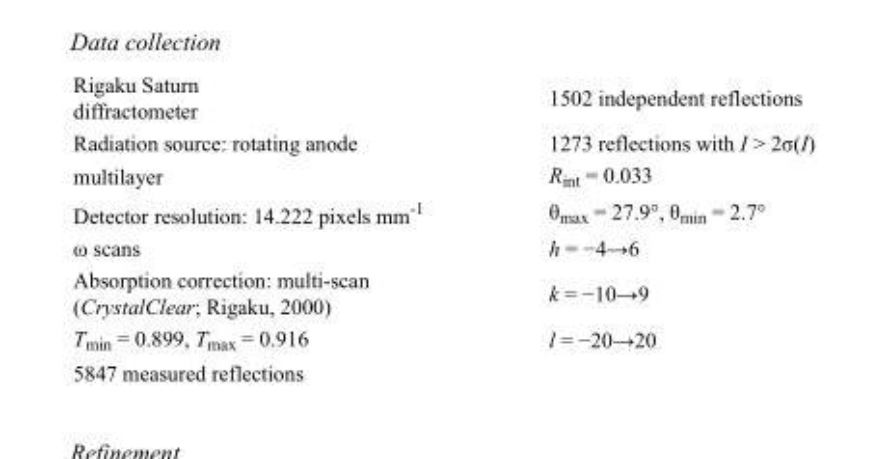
<table><tbody><tr><td>Rigaku Saturn diffractometer</td><td>1502 independent reflections</td></tr><tr><td>Radiation source: rotating anode</td><td>1273 reflections with I &gt; 2σ(I)</td></tr><tr><td>multilayer</td><td>R<sub>int</sub> = 0.033</td></tr><tr><td>Detector resolution: 14.222 pixels mm<sup>-1</sup></td><td>θ<sub>max</sub> = 27.9°, θ<sub>min</sub> = 2.7°</td></tr><tr><td>ω scans</td><td>h = −4→6</td></tr><tr><td>Absorption correction: multi-scan (CrystalClear; Rigaku, 2000)</td><td>k = −10→9</td></tr><tr><td>T<sub>min</sub> = 0.899, T<sub>max</sub> = 0.916</td><td>l = −20→20</td></tr><tr><td>5847 measured reflections</td><td></td></tr></tbody></table>